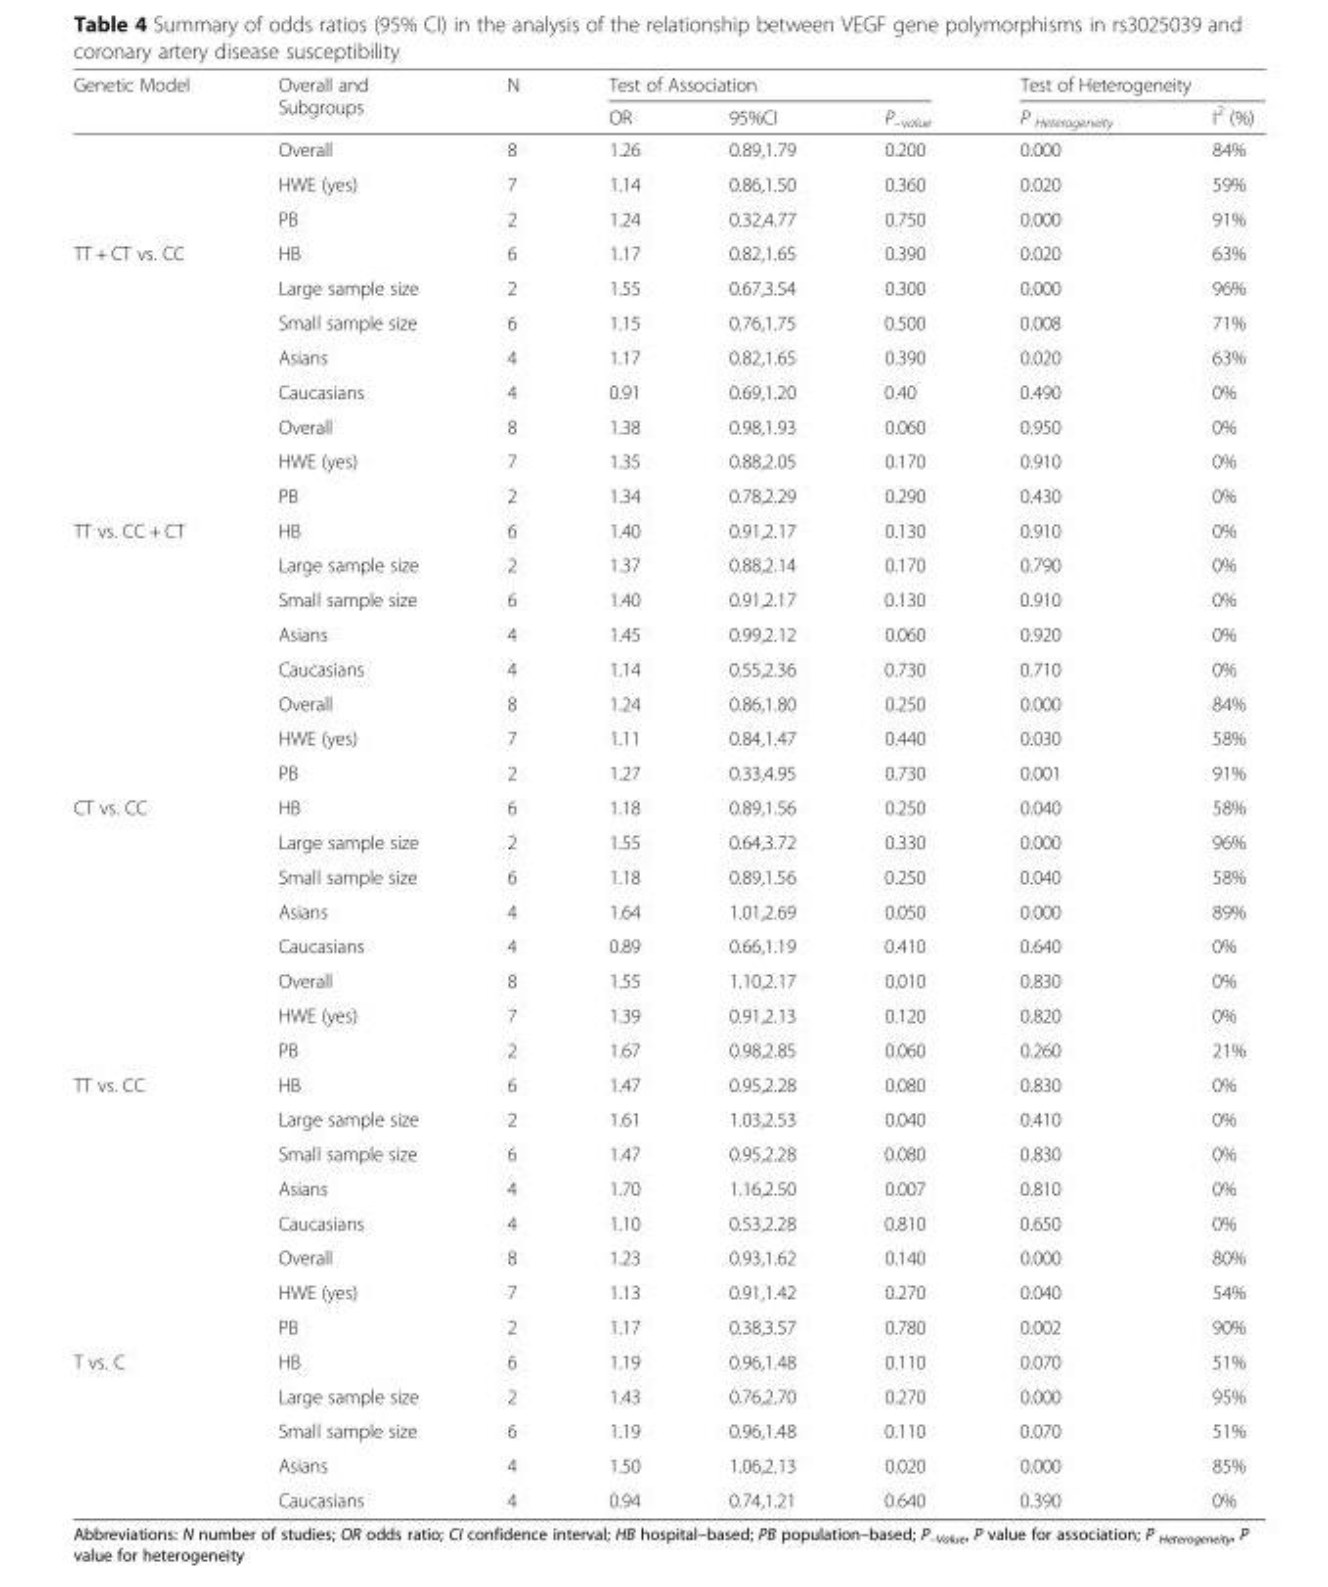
<table><thead><tr><td rowspan="2">Genetic Model</td><td rowspan="2">Overall and Subgroups</td><td rowspan="2">N</td><td colspan="3">Test of Association</td><td colspan="2">Test of Heterogeneity</td></tr><tr><td>OR</td><td>95%CI</td><td>P<sub>–value</sub></td><td>P <sub>Heterogeneity</sub></td><td>I<sup>2</sup> (%)</td></tr></thead><tbody><tr><td></td><td>Overall</td><td>8</td><td>1.26</td><td>0.89,1.79</td><td>0.200</td><td>0.000</td><td>84%</td></tr><tr><td></td><td>HWE (yes)</td><td>7</td><td>1.14</td><td>0.86,1.50</td><td>0.360</td><td>0.020</td><td>59%</td></tr><tr><td></td><td>PB</td><td>2</td><td>1.24</td><td>0.32,4.77</td><td>0.750</td><td>0.000</td><td>91%</td></tr><tr><td rowspan="8">TT + CT vs. CC</td><td>HB</td><td>6</td><td>1.17</td><td>0.82,1.65</td><td>0.390</td><td>0.020</td><td>63%</td></tr><tr><td>Large sample size</td><td>2</td><td>1.55</td><td>0.67,3.54</td><td>0.300</td><td>0.000</td><td>96%</td></tr><tr><td>Small sample size</td><td>6</td><td>1.15</td><td>0.76,1.75</td><td>0.500</td><td>0.008</td><td>71%</td></tr><tr><td>Asians</td><td>4</td><td>1.17</td><td>0.82,1.65</td><td>0.390</td><td>0.020</td><td>63%</td></tr><tr><td>Caucasians</td><td>4</td><td>0.91</td><td>0.69,1.20</td><td>0.40</td><td>0.490</td><td>0%</td></tr><tr><td>Overall</td><td>8</td><td>1.38</td><td>0.98,1.93</td><td>0.060</td><td>0.950</td><td>0%</td></tr><tr><td>HWE (yes)</td><td>7</td><td>1.35</td><td>0.88,2.05</td><td>0.170</td><td>0.910</td><td>0%</td></tr><tr><td>PB</td><td>2</td><td>1.34</td><td>0.78,2.29</td><td>0.290</td><td>0.430</td><td>0%</td></tr><tr><td rowspan="8">TT vs. CC + CT</td><td>HB</td><td>6</td><td>1.40</td><td>0.91,2.17</td><td>0.130</td><td>0.910</td><td>0%</td></tr><tr><td>Large sample size</td><td>2</td><td>1.37</td><td>0.88,2.14</td><td>0.170</td><td>0.790</td><td>0%</td></tr><tr><td>Small sample size</td><td>6</td><td>1.40</td><td>0.91,2.17</td><td>0.130</td><td>0.910</td><td>0%</td></tr><tr><td>Asians</td><td>4</td><td>1.45</td><td>0.99,2.12</td><td>0.060</td><td>0.920</td><td>0%</td></tr><tr><td>Caucasians</td><td>4</td><td>1.14</td><td>0.55,2.36</td><td>0.730</td><td>0.710</td><td>0%</td></tr><tr><td>Overall</td><td>8</td><td>1.24</td><td>0.86,1.80</td><td>0.250</td><td>0.000</td><td>84%</td></tr><tr><td>HWE (yes)</td><td>7</td><td>1.11</td><td>0.84,1.47</td><td>0.440</td><td>0.030</td><td>58%</td></tr><tr><td>PB</td><td>2</td><td>1.27</td><td>0.33,4.95</td><td>0.730</td><td>0.001</td><td>91%</td></tr><tr><td rowspan="8">CT vs. CC</td><td>HB</td><td>6</td><td>1.18</td><td>0.89,1.56</td><td>0.250</td><td>0.040</td><td>58%</td></tr><tr><td>Large sample size</td><td>2</td><td>1.55</td><td>0.64,3.72</td><td>0.330</td><td>0.000</td><td>96%</td></tr><tr><td>Small sample size</td><td>6</td><td>1.18</td><td>0.89,1.56</td><td>0.250</td><td>0.040</td><td>58%</td></tr><tr><td>Asians</td><td>4</td><td>1.64</td><td>1.01,2.69</td><td>0.050</td><td>0.000</td><td>89%</td></tr><tr><td>Caucasians</td><td>4</td><td>0.89</td><td>0.66,1.19</td><td>0.410</td><td>0.640</td><td>0%</td></tr><tr><td>Overall</td><td>8</td><td>1.55</td><td>1.10,2.17</td><td>0.010</td><td>0.830</td><td>0%</td></tr><tr><td>HWE (yes)</td><td>7</td><td>1.39</td><td>0.91,2.13</td><td>0.120</td><td>0.820</td><td>0%</td></tr><tr><td>PB</td><td>2</td><td>1.67</td><td>0.98,2.85</td><td>0.060</td><td>0.260</td><td>21%</td></tr><tr><td rowspan="8">TT vs. CC</td><td>HB</td><td>6</td><td>1.47</td><td>0.95,2.28</td><td>0.080</td><td>0.830</td><td>0%</td></tr><tr><td>Large sample size</td><td>2</td><td>1.61</td><td>1.03,2.53</td><td>0.040</td><td>0.410</td><td>0%</td></tr><tr><td>Small sample size</td><td>6</td><td>1.47</td><td>0.95,2.28</td><td>0.080</td><td>0.830</td><td>0%</td></tr><tr><td>Asians</td><td>4</td><td>1.70</td><td>1.16,2.50</td><td>0.007</td><td>0.810</td><td>0%</td></tr><tr><td>Caucasians</td><td>4</td><td>1.10</td><td>0.53,2.28</td><td>0.810</td><td>0.650</td><td>0%</td></tr><tr><td>Overall</td><td>8</td><td>1.23</td><td>0.93,1.62</td><td>0.140</td><td>0.000</td><td>80%</td></tr><tr><td>HWE (yes)</td><td>7</td><td>1.13</td><td>0.91,1.42</td><td>0.270</td><td>0.040</td><td>54%</td></tr><tr><td>PB</td><td>2</td><td>1.17</td><td>0.38,3.57</td><td>0.780</td><td>0.002</td><td>90%</td></tr><tr><td rowspan="5">T vs. C</td><td>HB</td><td>6</td><td>1.19</td><td>0.96,1.48</td><td>0.110</td><td>0.070</td><td>51%</td></tr><tr><td>Large sample size</td><td>2</td><td>1.43</td><td>0.76,2.70</td><td>0.270</td><td>0.000</td><td>95%</td></tr><tr><td>Small sample size</td><td>6</td><td>1.19</td><td>0.96,1.48</td><td>0.110</td><td>0.070</td><td>51%</td></tr><tr><td>Asians</td><td>4</td><td>1.50</td><td>1.06,2.13</td><td>0.020</td><td>0.000</td><td>85%</td></tr><tr><td>Caucasians</td><td>4</td><td>0.94</td><td>0.74,1.21</td><td>0.640</td><td>0.390</td><td>0%</td></tr></tbody></table>